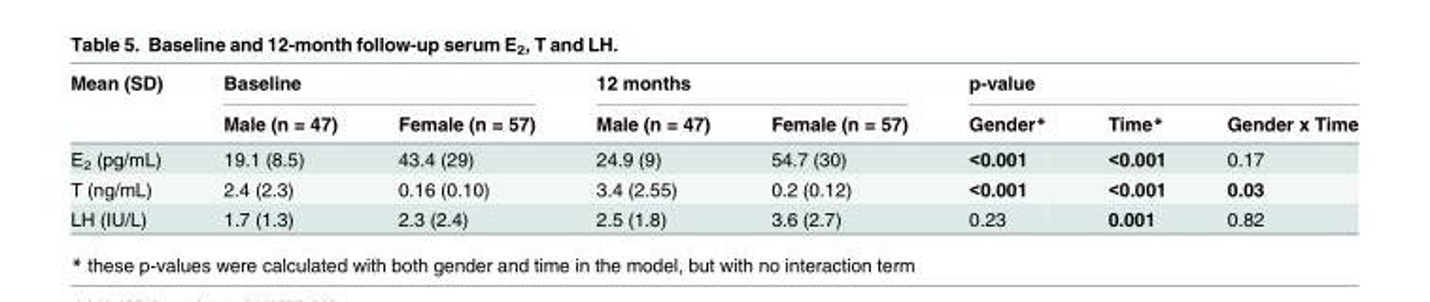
<table><thead><tr><td rowspan="2">Mean (SD)</td><td colspan="2">Baseline</td><td colspan="2">12 months</td><td colspan="3">p-value</td></tr><tr><td>Male (n = 47)</td><td>Female (n = 57)</td><td>Male (n = 47)</td><td>Female (n = 57)</td><td>Gender*</td><td>Time*</td><td>Gender x Time</td></tr></thead><tbody><tr><td>E<sub>2</sub> (pg/mL)</td><td>19.1 (8.5)</td><td>43.4 (29)</td><td>24.9 (9)</td><td>54.7 (30)</td><td>&lt;0.001</td><td>&lt;0.001</td><td>0.17</td></tr><tr><td>T (ng/mL)</td><td>2.4 (2.3)</td><td>0.16 (0.10)</td><td>3.4 (2.55)</td><td>0.2 (0.12)</td><td>&lt;0.001</td><td>&lt;0.001</td><td>0.03</td></tr><tr><td>LH (IU/L)</td><td>1.7 (1.3)</td><td>2.3 (2.4)</td><td>2.5 (1.8)</td><td>3.6 (2.7)</td><td>0.23</td><td>0.001</td><td>0.82</td></tr></tbody></table>